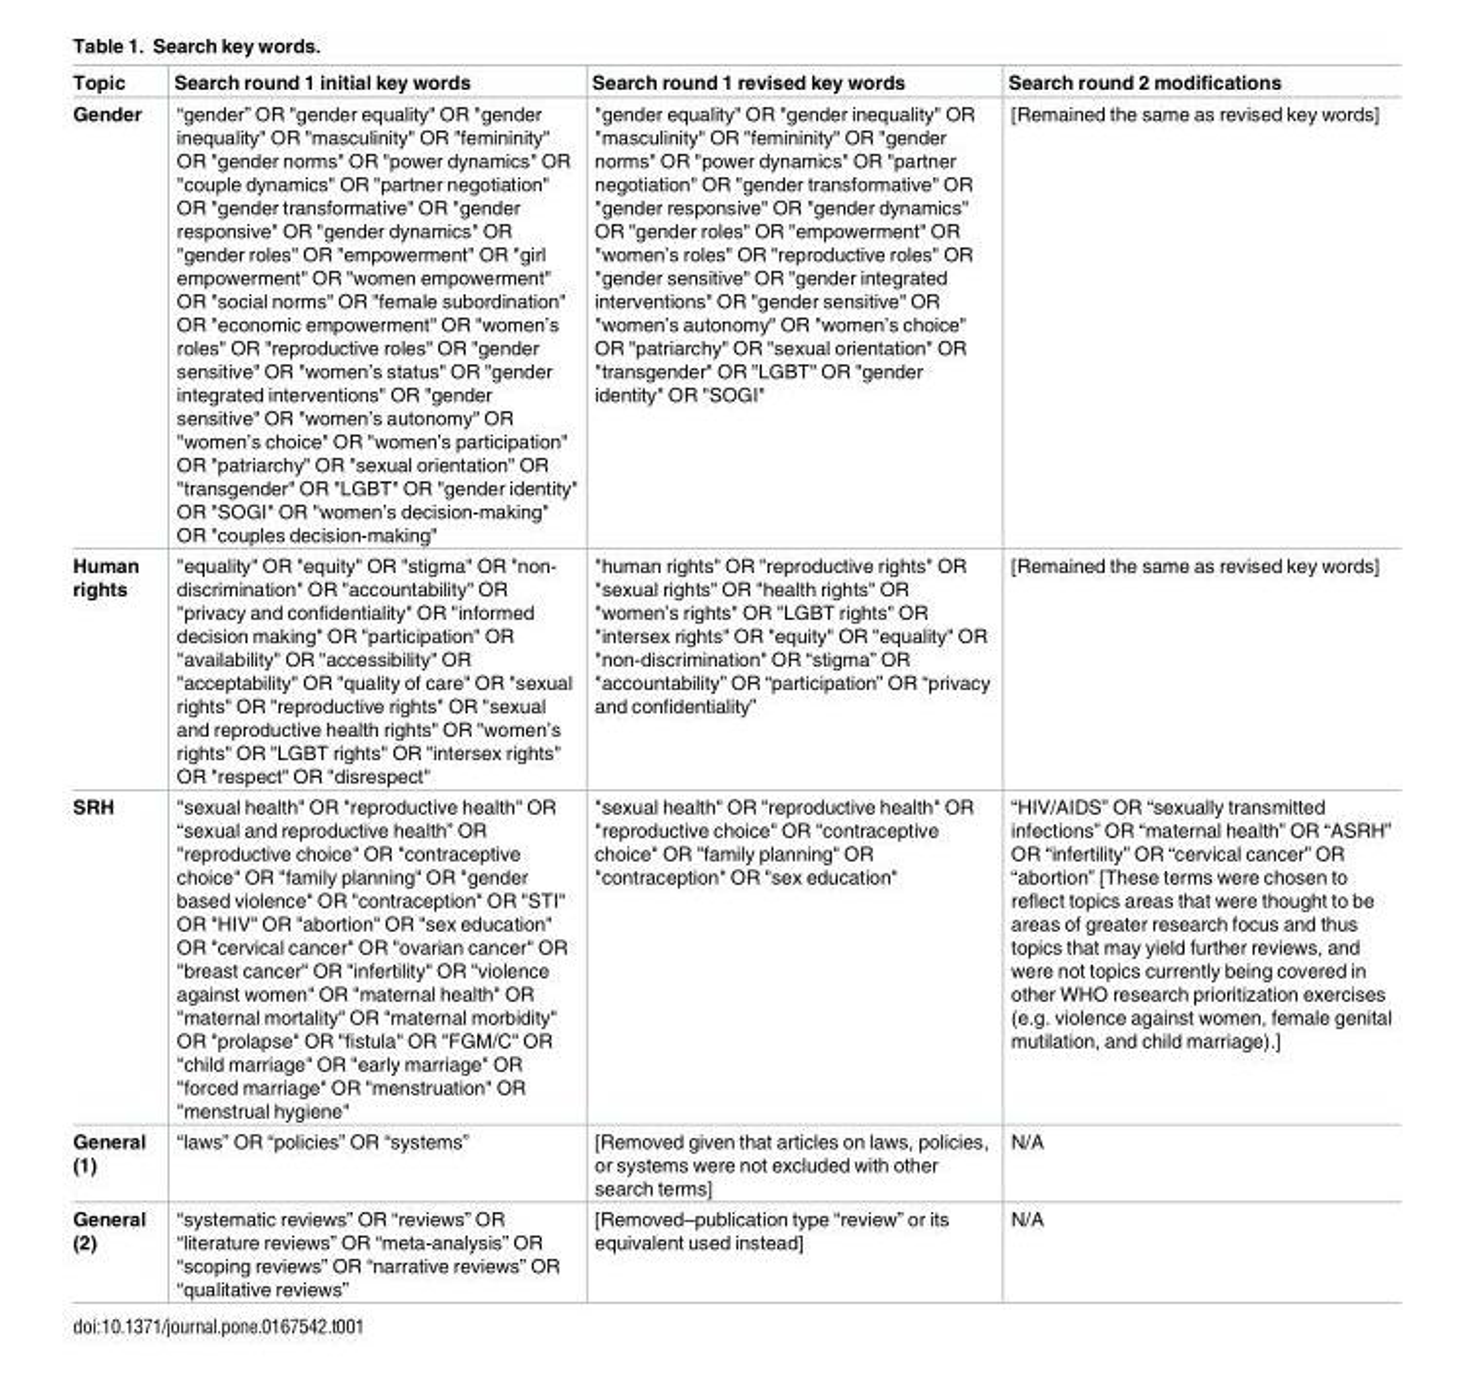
<table><thead><tr><td>Topic</td><td>Search round 1 initial key words</td><td>Search round 1 revised key words</td><td>Search round 2 modifications</td></tr></thead><tbody><tr><td>Gender</td><td>“gender” OR &quot;gender equality&quot; OR &quot;gender inequality&quot; OR &quot;masculinity&quot; OR &quot;femininity&quot; OR &quot;gender norms&quot; OR &quot;power dynamics&quot; OR &quot;couple dynamics&quot; OR &quot;partner negotiation&quot; OR &quot;gender transformative&quot; OR &quot;gender responsive&quot; OR &quot;gender dynamics&quot; OR &quot;gender roles&quot; OR &quot;empowerment&quot; OR &quot;girl empowerment&quot; OR &quot;women empowerment&quot; OR &quot;social norms&quot; OR &quot;female subordination&quot; OR &quot;economic empowerment&quot; OR &quot;women’s roles&quot; OR &quot;reproductive roles&quot; OR &quot;gender sensitive&quot; OR &quot;women’s status&quot; OR &quot;gender integrated interventions&quot; OR &quot;gender sensitive&quot; OR &quot;women’s autonomy&quot; OR &quot;women’s choice&quot; OR &quot;women’s participation&quot; OR &quot;patriarchy&quot; OR &quot;sexual orientation&quot; OR &quot;transgender&quot; OR &quot;LGBT&quot; OR &quot;gender identity&quot; OR &quot;SOGI&quot; OR &quot;women’s decision-making&quot; OR &quot;couples decision-making&quot;</td><td>&quot;gender equality&quot; OR &quot;gender inequality&quot; OR &quot;masculinity&quot; OR &quot;femininity&quot; OR &quot;gender norms&quot; OR &quot;power dynamics&quot; OR &quot;partner negotiation&quot; OR &quot;gender transformative&quot; OR &quot;gender responsive&quot; OR &quot;gender dynamics&quot; OR &quot;gender roles&quot; OR &quot;empowerment&quot; OR &quot;women’s roles&quot; OR &quot;reproductive roles&quot; OR &quot;gender sensitive&quot; OR &quot;gender integrated interventions&quot; OR &quot;gender sensitive&quot; OR &quot;women’s autonomy&quot; OR &quot;women’s choice&quot; OR &quot;patriarchy&quot; OR &quot;sexual orientation&quot; OR &quot;transgender&quot; OR &quot;LGBT&quot; OR &quot;gender identity&quot; OR &quot;SOGI&quot;</td><td>[Remained the same as revised key words]</td></tr><tr><td>Human rights</td><td>&quot;equality&quot; OR &quot;equity&quot; OR &quot;stigma&quot; OR &quot;non- discrimination&quot; OR &quot;accountability&quot; OR &quot;privacy and confidentiality&quot; OR &quot;informed decision making&quot; OR &quot;participation&quot; OR &quot;availability&quot; OR &quot;accessibility&quot; OR &quot;acceptability&quot; OR &quot;quality of care&quot; OR &quot;sexual rights&quot; OR &quot;reproductive rights&quot; OR &quot;sexual and reproductive health rights&quot; OR &quot;women’s rights&quot; OR &quot;LGBT rights&quot; OR &quot;intersex rights&quot; OR &quot;respect&quot; OR &quot;disrespect&quot;</td><td>&quot;human rights&quot; OR &quot;reproductive rights&quot; OR &quot;sexual rights&quot; OR &quot;health rights&quot; OR &quot;women’s rights&quot; OR &quot;LGBT rights&quot; OR &quot;intersex rights&quot; OR &quot;equity&quot; OR &quot;equality&quot; OR &quot;non-discrimination&quot; OR “stigma” OR &quot;accountability” OR “participation” OR “privacy and confidentiality”</td><td>[Remained the same as revised key words]</td></tr><tr><td>SRH</td><td>&quot;sexual health&quot; OR &quot;reproductive health&quot; OR “sexual and reproductive health” OR &quot;reproductive choice&quot; OR &quot;contraceptive choice&quot; OR &quot;family planning&quot; OR &quot;gender based violence&quot; OR &quot;contraception&quot; OR &quot;STI&quot; OR &quot;HIV&quot; OR &quot;abortion&quot; OR &quot;sex education&quot; OR &quot;cervical cancer&quot; OR &quot;ovarian cancer&quot; OR &quot;breast cancer&quot; OR &quot;infertility&quot; OR &quot;violence against women&quot; OR &quot;maternal health&quot; OR &quot;maternal mortality&quot; OR &quot;maternal morbidity&quot; OR &quot;prolapse&quot; OR &quot;fistula&quot; OR &quot;FGM/C&quot; OR &quot;child marriage&quot; OR &quot;early marriage&quot; OR &quot;forced marriage&quot; OR &quot;menstruation&quot; OR &quot;menstrual hygiene&quot;</td><td>&quot;sexual health&quot; OR &quot;reproductive health&quot; OR &quot;reproductive choice&quot; OR &quot;contraceptive choice&quot; OR &quot;family planning&quot; OR &quot;contraception&quot; OR &quot;sex education&quot;</td><td>“HIV/AIDS” OR “sexually transmitted infections” OR “maternal health” OR “ASRH” OR “infertility” OR “cervical cancer” OR “abortion” [These terms were chosen to reflect topics areas that were thought to be areas of greater research focus and thus topics that may yield further reviews, and were not topics currently being covered in other WHO research prioritization exercises (e.g. violence against women, female genital mutilation, and child marriage).]</td></tr><tr><td>General (1)</td><td>“laws” OR “policies” OR “systems”</td><td>[Removed given that articles on laws, policies, or systems were not excluded with other search terms]</td><td>N/A</td></tr><tr><td>General (2)</td><td>“systematic reviews” OR “reviews” OR “literature reviews” OR “meta-analysis” OR “scoping reviews” OR “narrative reviews” OR “qualitative reviews”</td><td>[Removed–publication type “review” or its equivalent used instead]</td><td>N/A</td></tr></tbody></table>